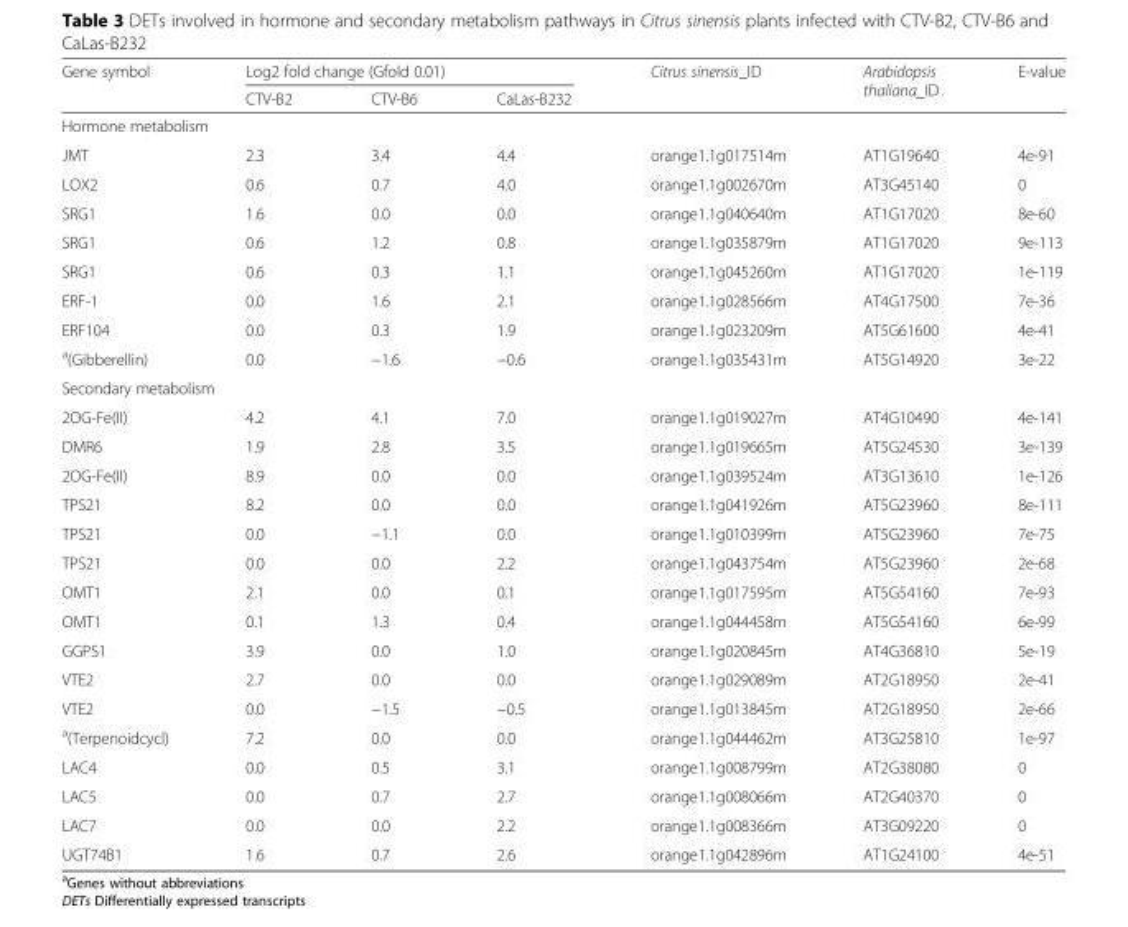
<table><thead><tr><td rowspan="2">Gene symbol</td><td colspan="3">Log2 fold change (Gfold 0.01)</td><td rowspan="2">Citrus sinensis_ID</td><td rowspan="2">Arabidopsis thaliana_ID</td><td rowspan="2">E-value</td></tr><tr><td>CTV-B2</td><td>CTV-B6</td><td>CaLas-B232</td></tr></thead><tbody><tr><td colspan="7">Hormone metabolism</td></tr><tr><td>JMT</td><td>2.3</td><td>3.4</td><td>4.4</td><td>orange1.1g017514m</td><td>AT1G19640</td><td>4e-91</td></tr><tr><td>LOX2</td><td>0.6</td><td>0.7</td><td>4.0</td><td>orange1.1g002670m</td><td>AT3G45140</td><td>0</td></tr><tr><td>SRG1</td><td>1.6</td><td>0.0</td><td>0.0</td><td>orange1.1g040640m</td><td>AT1G17020</td><td>8e-60</td></tr><tr><td>SRG1</td><td>0.6</td><td>1.2</td><td>0.8</td><td>orange1.1g035879m</td><td>AT1G17020</td><td>9e-113</td></tr><tr><td>SRG1</td><td>0.6</td><td>0.3</td><td>1.1</td><td>orange1.1g045260m</td><td>AT1G17020</td><td>1e-119</td></tr><tr><td>ERF-1</td><td>0.0</td><td>1.6</td><td>2.1</td><td>orange1.1g028566m</td><td>AT4G17500</td><td>7e-36</td></tr><tr><td>ERF104</td><td>0.0</td><td>0.3</td><td>1.9</td><td>orange1.1g023209m</td><td>AT5G61600</td><td>4e-41</td></tr><tr><td><sup>a</sup>(Gibberellin)</td><td>0.0</td><td>−1.6</td><td>−0.6</td><td>orange1.1g035431m</td><td>AT5G14920</td><td>3e-22</td></tr><tr><td colspan="7">Secondary metabolism</td></tr><tr><td>2OG-Fe(II)</td><td>4.2</td><td>4.1</td><td>7.0</td><td>orange1.1g019027m</td><td>AT4G10490</td><td>4e-141</td></tr><tr><td>DMR6</td><td>1.9</td><td>2.8</td><td>3.5</td><td>orange1.1g019665m</td><td>AT5G24530</td><td>3e-139</td></tr><tr><td>2OG-Fe(II)</td><td>8.9</td><td>0.0</td><td>0.0</td><td>orange1.1g039524m</td><td>AT3G13610</td><td>1e-126</td></tr><tr><td>TPS21</td><td>8.2</td><td>0.0</td><td>0.0</td><td>orange1.1g041926m</td><td>AT5G23960</td><td>8e-111</td></tr><tr><td>TPS21</td><td>0.0</td><td>−1.1</td><td>0.0</td><td>orange1.1g010399m</td><td>AT5G23960</td><td>7e-75</td></tr><tr><td>TPS21</td><td>0.0</td><td>0.0</td><td>2.2</td><td>orange1.1g043754m</td><td>AT5G23960</td><td>2e-68</td></tr><tr><td>OMT1</td><td>2.1</td><td>0.0</td><td>0.1</td><td>orange1.1g017595m</td><td>AT5G54160</td><td>7e-93</td></tr><tr><td>OMT1</td><td>0.1</td><td>1.3</td><td>0.4</td><td>orange1.1g044458m</td><td>AT5G54160</td><td>6e-99</td></tr><tr><td>GGPS1</td><td>3.9</td><td>0.0</td><td>1.0</td><td>orange1.1g020845m</td><td>AT4G36810</td><td>5e-19</td></tr><tr><td>VTE2</td><td>2.7</td><td>0.0</td><td>0.0</td><td>orange1.1g029089m</td><td>AT2G18950</td><td>2e-41</td></tr><tr><td>VTE2</td><td>0.0</td><td>−1.5</td><td>−0.5</td><td>orange1.1g013845m</td><td>AT2G18950</td><td>2e-66</td></tr><tr><td><sup>a</sup>(Terpenoidcycl)</td><td>7.2</td><td>0.0</td><td>0.0</td><td>orange1.1g044462m</td><td>AT3G25810</td><td>1e-97</td></tr><tr><td>LAC4</td><td>0.0</td><td>0.5</td><td>3.1</td><td>orange1.1g008799m</td><td>AT2G38080</td><td>0</td></tr><tr><td>LAC5</td><td>0.0</td><td>0.7</td><td>2.7</td><td>orange1.1g008066m</td><td>AT2G40370</td><td>0</td></tr><tr><td>LAC7</td><td>0.0</td><td>0.0</td><td>2.2</td><td>orange1.1g008366m</td><td>AT3G09220</td><td>0</td></tr><tr><td>UGT74B1</td><td>1.6</td><td>0.7</td><td>2.6</td><td>orange1.1g042896m</td><td>AT1G24100</td><td>4e-51</td></tr></tbody></table>